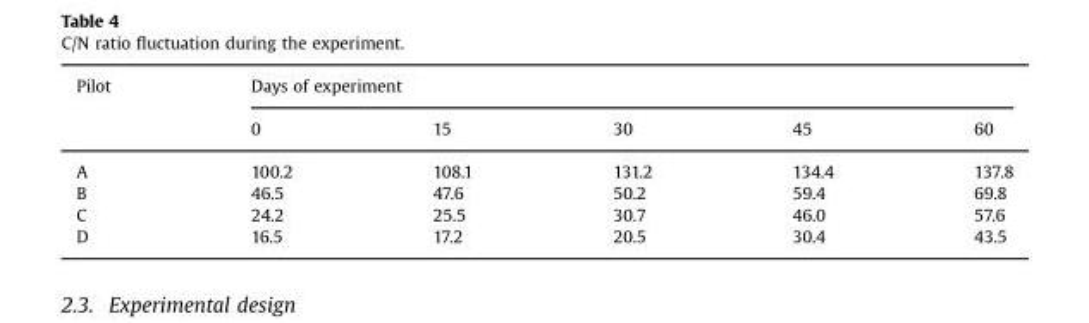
<table><thead><tr><td rowspan="2">Pilot</td><td colspan="5">Days of experiment</td></tr><tr><td>0</td><td>15</td><td>30</td><td>45</td><td>60</td></tr></thead><tbody><tr><td>A</td><td>100.2</td><td>108.1</td><td>131.2</td><td>134.4</td><td>137.8</td></tr><tr><td>B</td><td>46.5</td><td>47.6</td><td>50.2</td><td>59.4</td><td>69.8</td></tr><tr><td>C</td><td>24.2</td><td>25.5</td><td>30.7</td><td>46.0</td><td>57.6</td></tr><tr><td>D</td><td>16.5</td><td>17.2</td><td>20.5</td><td>30.4</td><td>43.5</td></tr></tbody></table>